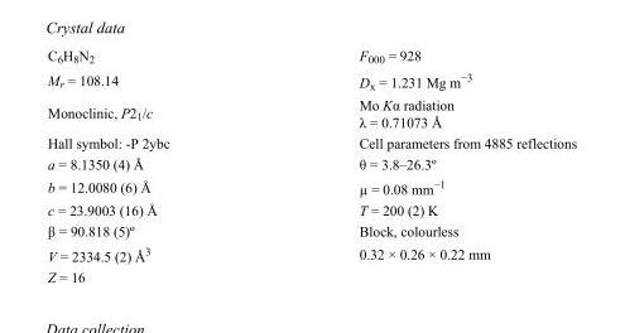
<table><tbody><tr><td>C<sub>6</sub>H<sub>8</sub>N<sub>2</sub></td><td>F<sub>000</sub> = 928</td></tr><tr><td>M<sub>r</sub> = 108.14</td><td>D<sub>x</sub> = 1.231 Mg m<sup>−3</sup></td></tr><tr><td>Monoclinic, P2<sub>1</sub>/c</td><td>Mo Kα radiation λ = 0.71073 Å</td></tr><tr><td>Hall symbol: -P 2ybc</td><td>Cell parameters from 4885 reflections</td></tr><tr><td>a = 8.1350 (4) Å</td><td>θ = 3.8–26.3º</td></tr><tr><td>b = 12.0080 (6) Å</td><td>µ = 0.08 mm<sup>−1</sup></td></tr><tr><td>c = 23.9003 (16) Å</td><td>T = 200 (2) K</td></tr><tr><td>β = 90.818 (5)º</td><td>Block, colourless</td></tr><tr><td>V = 2334.5 (2) Å<sup>3</sup></td><td>0.32 × 0.26 × 0.22 mm</td></tr><tr><td>Z = 16</td><td></td></tr></tbody></table>